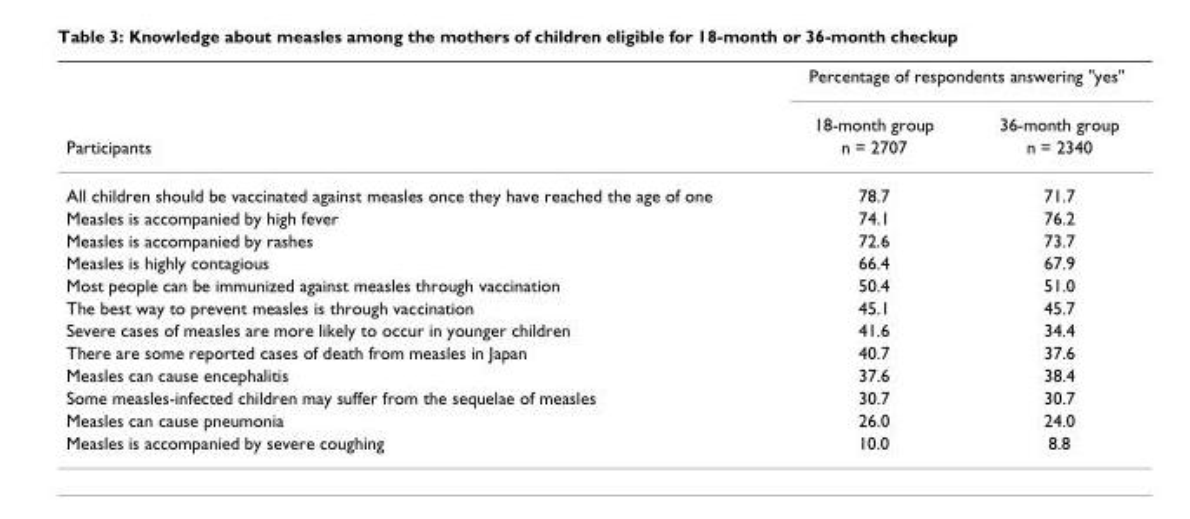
<table><thead><tr><td rowspan="3">Participants</td><td colspan="2">Percentage of respondents answering &quot;yes&quot;</td></tr><tr><td rowspan="2">18-month group n = 2707</td><td rowspan="2">36-month group n = 2340</td></tr><tr></tr></thead><tbody><tr><td>All children should be vaccinated against measles once they have reached the age of one</td><td>78.7</td><td>71.7</td></tr><tr><td>Measles is accompanied by high fever</td><td>74.1</td><td>76.2</td></tr><tr><td>Measles is accompanied by rashes</td><td>72.6</td><td>73.7</td></tr><tr><td>Measles is highly contagious</td><td>66.4</td><td>67.9</td></tr><tr><td>Most people can be immunized against measles through vaccination</td><td>50.4</td><td>51.0</td></tr><tr><td>The best way to prevent measles is through vaccination</td><td>45.1</td><td>45.7</td></tr><tr><td>Severe cases of measles are more likely to occur in younger children</td><td>41.6</td><td>34.4</td></tr><tr><td>There are some reported cases of death from measles in Japan</td><td>40.7</td><td>37.6</td></tr><tr><td>Measles can cause encephalitis</td><td>37.6</td><td>38.4</td></tr><tr><td>Some measles-infected children may suffer from the sequelae of measles</td><td>30.7</td><td>30.7</td></tr><tr><td>Measles can cause pneumonia</td><td>26.0</td><td>24.0</td></tr><tr><td>Measles is accompanied by severe coughing</td><td>10.0</td><td>8.8</td></tr></tbody></table>